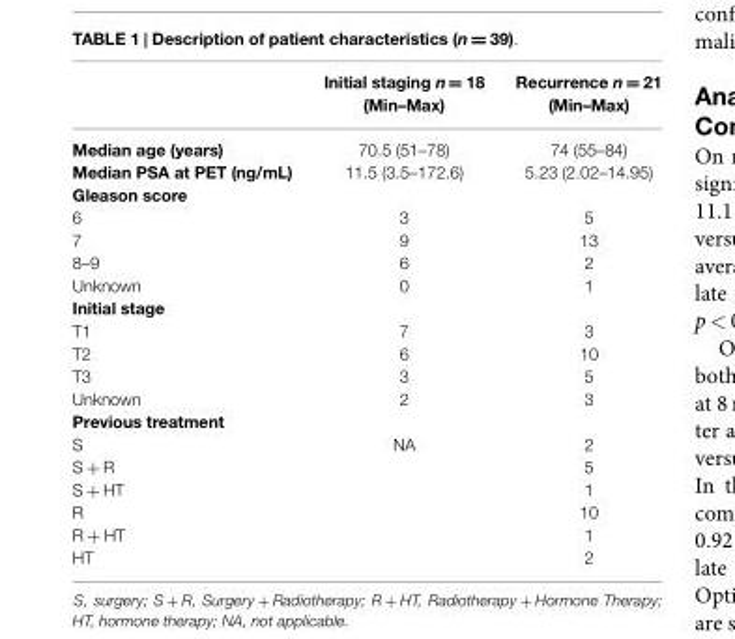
<table><thead><tr><td></td><td>Initial staging n= = = 18 (Min–Max)</td><td>Recurrence n= = = 21 (Min–Max)</td></tr></thead><tbody><tr><td>Median age (years)</td><td>70.5 (51–78)</td><td>74 (55–84)</td></tr><tr><td>Median PSA at PET (ng/mL)</td><td>11.5 (3.5–172.6)</td><td>5.23 (2.02–14.95)</td></tr><tr><td colspan="3">Gleason score</td></tr><tr><td>6</td><td>3</td><td>5</td></tr><tr><td>7</td><td>9</td><td>13</td></tr><tr><td>8–9</td><td>6</td><td>2</td></tr><tr><td>Unknown</td><td>0</td><td>1</td></tr><tr><td colspan="3">Initial stage</td></tr><tr><td>T1</td><td>7</td><td>3</td></tr><tr><td>T2</td><td>6</td><td>10</td></tr><tr><td>T3</td><td>3</td><td>5</td></tr><tr><td>Unknown</td><td>2</td><td>3</td></tr><tr><td colspan="3">Previous treatment</td></tr><tr><td>S</td><td>NA</td><td>2</td></tr><tr><td>S + R</td><td></td><td>5</td></tr><tr><td>S + HT</td><td></td><td>1</td></tr><tr><td>R</td><td></td><td>10</td></tr><tr><td>R + HT</td><td></td><td>1</td></tr><tr><td>HT</td><td></td><td>2</td></tr></tbody></table>